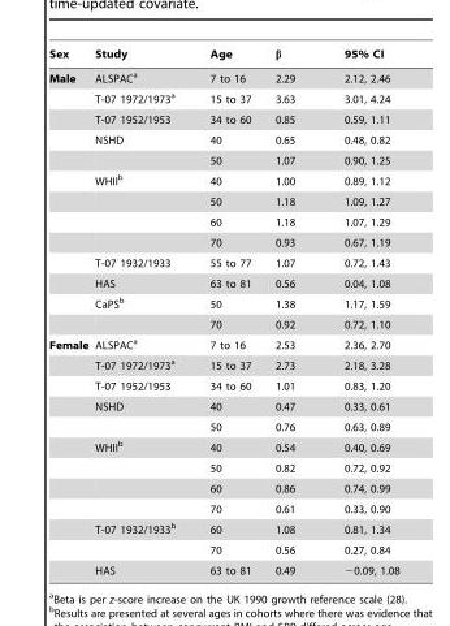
<table><thead><tr><td>Sex</td><td>Study</td><td>Age</td><td>β</td><td>95% CI</td></tr></thead><tbody><tr><td rowspan="13">Male</td><td>ALSPAC<sup>a</sup></td><td>7 to 16</td><td>2.29</td><td>2.12, 2.46</td></tr><tr><td>T-07 1972/1973<sup>a</sup></td><td>15 to 37</td><td>3.63</td><td>3.01, 4.24</td></tr><tr><td>T-07 1952/1953</td><td>34 to 60</td><td>0.85</td><td>0.59, 1.11</td></tr><tr><td>NSHD</td><td>40</td><td>0.65</td><td>0.48, 0.82</td></tr><tr><td></td><td>50</td><td>1.07</td><td>0.90, 1.25</td></tr><tr><td>WHII<sup>b</sup></td><td>40</td><td>1.00</td><td>0.89, 1.12</td></tr><tr><td></td><td>50</td><td>1.18</td><td>1.09, 1.27</td></tr><tr><td></td><td>60</td><td>1.18</td><td>1.07, 1.29</td></tr><tr><td></td><td>70</td><td>0.93</td><td>0.67, 1.19</td></tr><tr><td>T-07 1932/1933</td><td>55 to 77</td><td>1.07</td><td>0.72, 1.43</td></tr><tr><td>HAS</td><td>63 to 81</td><td>0.56</td><td>0.04, 1.08</td></tr><tr><td>CaPS<sup>b</sup></td><td>50</td><td>1.38</td><td>1.17, 1.59</td></tr><tr><td></td><td>70</td><td>0.92</td><td>0.72, 1.10</td></tr><tr><td rowspan="12">Female</td><td>ALSPAC<sup>a</sup></td><td>7 to 16</td><td>2.53</td><td>2.36, 2.70</td></tr><tr><td>T-07 1972/1973<sup>a</sup></td><td>15 to 37</td><td>2.73</td><td>2.18, 3.28</td></tr><tr><td>T-07 1952/1953</td><td>34 to 60</td><td>1.01</td><td>0.83, 1.20</td></tr><tr><td>NSHD</td><td>40</td><td>0.47</td><td>0.33, 0.61</td></tr><tr><td></td><td>50</td><td>0.76</td><td>0.63, 0.89</td></tr><tr><td>WHII<sup>b</sup></td><td>40</td><td>0.54</td><td>0.40, 0.69</td></tr><tr><td></td><td>50</td><td>0.82</td><td>0.72, 0.92</td></tr><tr><td></td><td>60</td><td>0.86</td><td>0.74, 0.99</td></tr><tr><td></td><td>70</td><td>0.61</td><td>0.33, 0.90</td></tr><tr><td>T-07 1932/1933<sup>b</sup></td><td>60</td><td>1.08</td><td>0.81, 1.34</td></tr><tr><td></td><td>70</td><td>0.56</td><td>0.27, 0.84</td></tr><tr><td>HAS</td><td>63 to 81</td><td>0.49</td><td>−0.09, 1.08</td></tr></tbody></table>